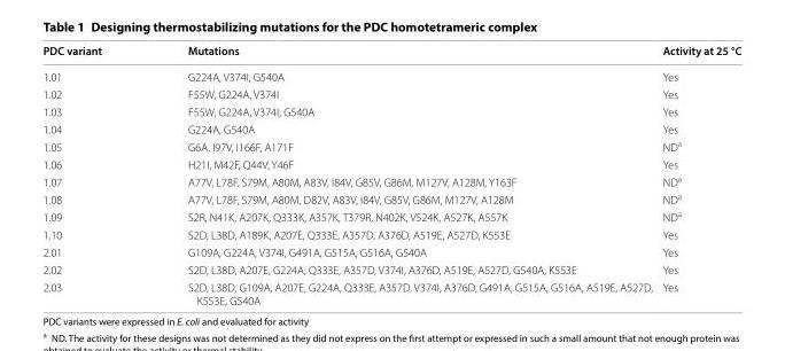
<table><thead><tr><td>PDC variant</td><td>Mutations</td><td>Activity at 25 °C</td></tr></thead><tbody><tr><td>1.01</td><td>G224A, V374I, G540A</td><td>Yes</td></tr><tr><td>1.02</td><td>F55W, G224A, V374I</td><td>Yes</td></tr><tr><td>1.03</td><td>F55W, G224A, V374I, G540A</td><td>Yes</td></tr><tr><td>1.04</td><td>G224A, G540A</td><td>Yes</td></tr><tr><td>1.05</td><td>G6A, I97V, I166F, A171F</td><td>ND<sup>a</sup></td></tr><tr><td>1.06</td><td>H21I, M42F, Q44V, Y46F</td><td>Yes</td></tr><tr><td>1.07</td><td>A77V, L78F, S79M, A80M, A83V, I84V, G85V, G86M, M127V, A128M, Y163F</td><td>ND<sup>a</sup></td></tr><tr><td>1.08</td><td>A77V, L78F, S79M, A80M, D82V, A83V, I84V, G85V, G86M, M127V, A128M</td><td>ND<sup>a</sup></td></tr><tr><td>1.09</td><td>S2R, N41K, A207K, Q333K, A357K, T379R, N402K, V524K, A527K, A557K</td><td>ND<sup>a</sup></td></tr><tr><td>1.10</td><td>S2D, L38D, A189K, A207E, Q333E, A357D, A376D, A519E, A527D, K553E</td><td>Yes</td></tr><tr><td>2.01</td><td>G109A, G224A, V374I, G491A, G515A, G516A, G540A</td><td>Yes</td></tr><tr><td>2.02</td><td>S2D, L38D, A207E, G224A, Q333E, A357D, V374I, A376D, A519E, A527D, G540A, K553E</td><td>Yes</td></tr><tr><td>2.03</td><td>S2D, L38D, G109A, A207E, G224A, Q333E, A357D, V374I, A376D, G491A, G515A, G516A, A519E, A527D, K553E, G540A</td><td>Yes</td></tr></tbody></table>